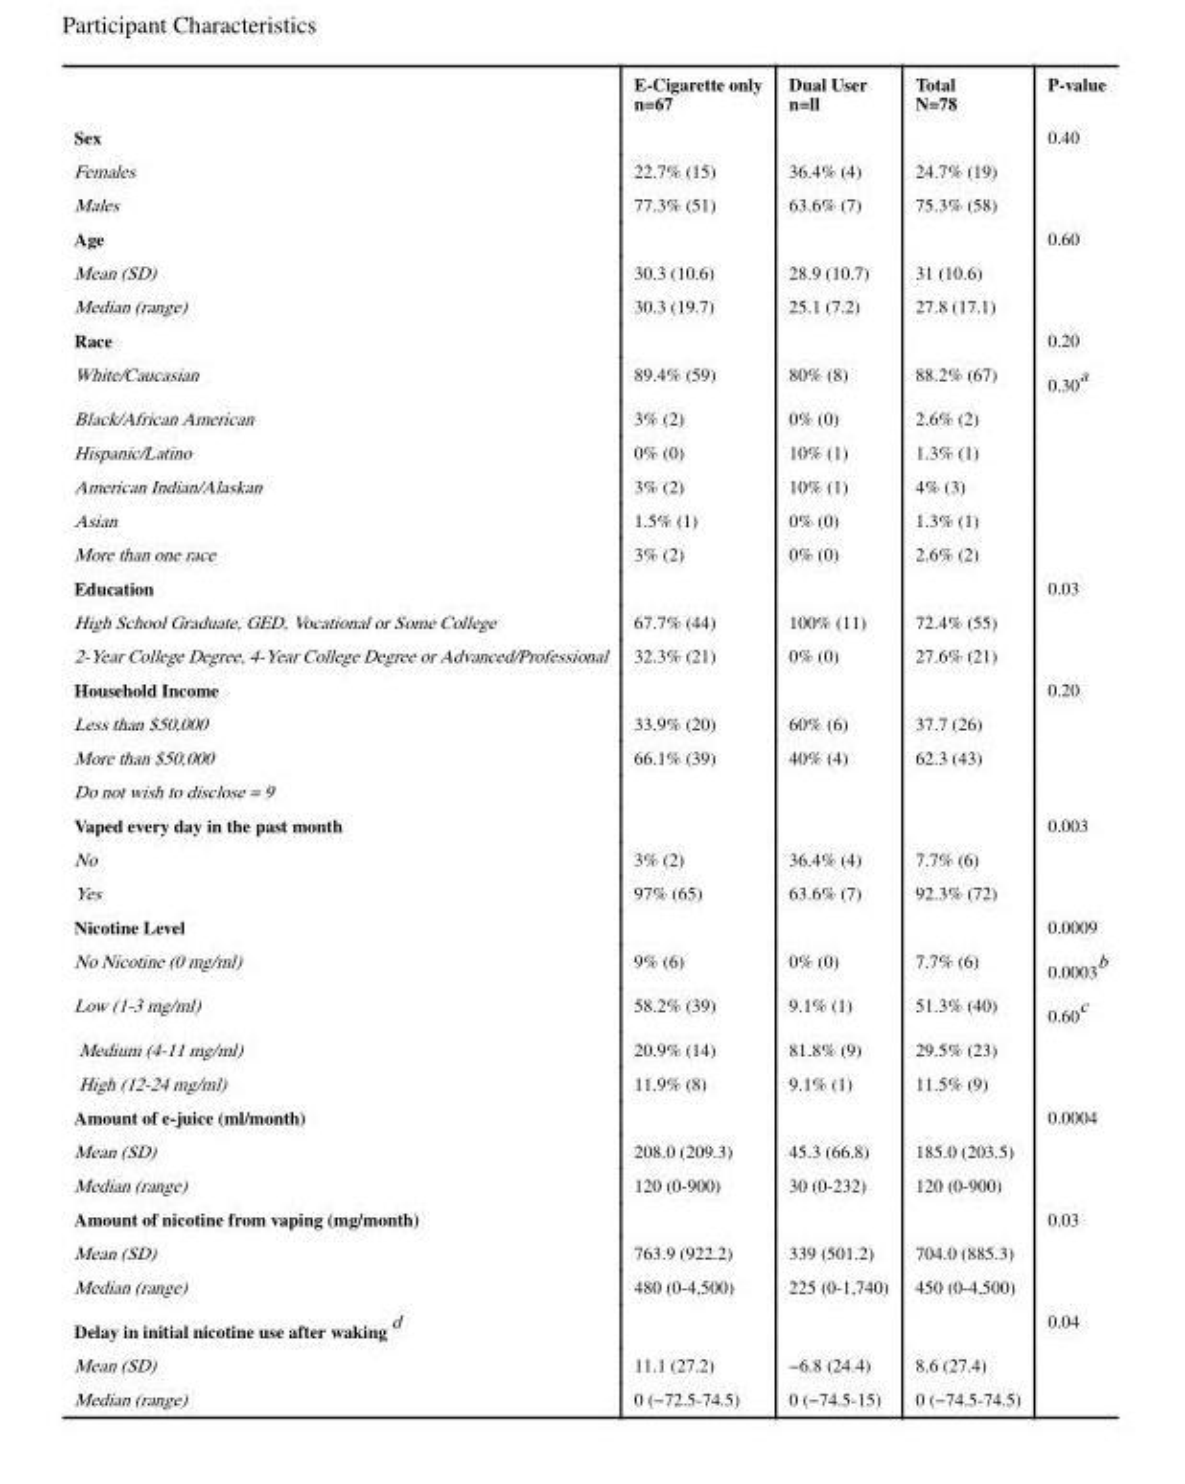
<table><thead><tr><td></td><td>E-Cigarette only n=67</td><td>Dual User n=ll</td><td>Total N=78</td><td>P-value</td></tr></thead><tbody><tr><td>Sex</td><td></td><td></td><td></td><td>0.40</td></tr><tr><td>Females</td><td>22.7% (15)</td><td>36.4% (4)</td><td>24.7% (19)</td><td></td></tr><tr><td>Males</td><td>77.3% (51)</td><td>63.6% (7)</td><td>75.3% (58)</td><td></td></tr><tr><td>Age</td><td></td><td></td><td></td><td>0.60</td></tr><tr><td>Mean (SD)</td><td>30.3 (10.6)</td><td>28.9 (10.7)</td><td>31 (10.6)</td><td></td></tr><tr><td>Median (range)</td><td>30.3 (19.7)</td><td>25.1 (7.2)</td><td>27.8 (17.1)</td><td></td></tr><tr><td>Race</td><td></td><td></td><td></td><td>0.20</td></tr><tr><td>White/Caucasian</td><td>89.4% (59)</td><td>80% (8)</td><td>88.2% (67)</td><td>0.30<sup>a</sup></td></tr><tr><td>Black/African American</td><td>3% (2)</td><td>0% (0)</td><td>2.6% (2)</td><td></td></tr><tr><td>Hispanic/Latino</td><td>0% (0)</td><td>10% (1)</td><td>1.3% (1)</td><td></td></tr><tr><td>American Indian/Alaskan</td><td>3% (2)</td><td>10% (1)</td><td>4% (3)</td><td></td></tr><tr><td>Asian</td><td>1.5% (1)</td><td>0% (0)</td><td>1.3% (1)</td><td></td></tr><tr><td>More than one race</td><td>3% (2)</td><td>0% (0)</td><td>2.6% (2)</td><td></td></tr><tr><td>Education</td><td></td><td></td><td></td><td>0.03</td></tr><tr><td>High School Graduate, GED, Vocational or Some College</td><td>67.7% (44)</td><td>100% (11)</td><td>72.4% (55)</td><td></td></tr><tr><td>2-Year College Degree, 4-Year College Degree or Advanced/Professional</td><td>32.3% (21)</td><td>0% (0)</td><td>27.6% (21)</td><td></td></tr><tr><td>Household Income</td><td></td><td></td><td></td><td>0.20</td></tr><tr><td>Less than $50,000</td><td>33.9% (20)</td><td>60% (6)</td><td>37.7 (26)</td><td></td></tr><tr><td>More than $50,000</td><td>66.1% (39)</td><td>40% (4)</td><td>62.3 (43)</td><td></td></tr><tr><td colspan="5">Do not wish to disclose = 9</td></tr><tr><td>Vaped every day in the past month</td><td></td><td></td><td></td><td>0.003</td></tr><tr><td>No</td><td>3% (2)</td><td>36.4% (4)</td><td>7.7% (6)</td><td></td></tr><tr><td>Yes</td><td>97% (65)</td><td>63.6% (7)</td><td>92.3% (72)</td><td></td></tr><tr><td>Nicotine Level</td><td></td><td></td><td></td><td>0.0009</td></tr><tr><td>No Nicotine (0 mg/ml)</td><td>9% (6)</td><td>0% (0)</td><td>7.7% (6)</td><td>0.0003<sup>b</sup></td></tr><tr><td>Low (1-3 mg/ml)</td><td>58.2% (39)</td><td>9.1% (1)</td><td>51.3% (40)</td><td>0.60<sup>c</sup></td></tr><tr><td>Medium (4-11 mg/ml)</td><td>20.9% (14)</td><td>81.8% (9)</td><td>29.5% (23)</td><td></td></tr><tr><td>High (12-24 mg/ml)</td><td>11.9% (8)</td><td>9.1% (1)</td><td>11.5% (9)</td><td></td></tr><tr><td>Amount of e-juice (ml/month)</td><td></td><td></td><td></td><td>0.0004</td></tr><tr><td>Mean (SD)</td><td>208.0 (209.3)</td><td>45.3 (66.8)</td><td>185.0 (203.5)</td><td></td></tr><tr><td>Median (range)</td><td>120 (0-900)</td><td>30 (0-232)</td><td>120 (0-900)</td><td></td></tr><tr><td>Amount of nicotine from vaping (mg/month)</td><td></td><td></td><td></td><td>0.03</td></tr><tr><td>Mean (SD)</td><td>763.9 (922.2)</td><td>339 (501.2)</td><td>704.0 (885.3)</td><td></td></tr><tr><td>Median (range)</td><td>480 (0-4,500)</td><td>225 (0-1,740)</td><td>450 (0-4,500)</td><td></td></tr><tr><td>Delay in initial nicotine use after waking <sup>d</sup></td><td></td><td></td><td></td><td>0.04</td></tr><tr><td>Mean (SD)</td><td>11.1 (27.2)</td><td>−6.8 (24.4)</td><td>8.6 (27.4)</td><td></td></tr><tr><td>Median (range)</td><td>0 (−72.5-74.5)</td><td>0 (−74.5-15)</td><td>0 (−74.5-74.5)</td><td></td></tr></tbody></table>